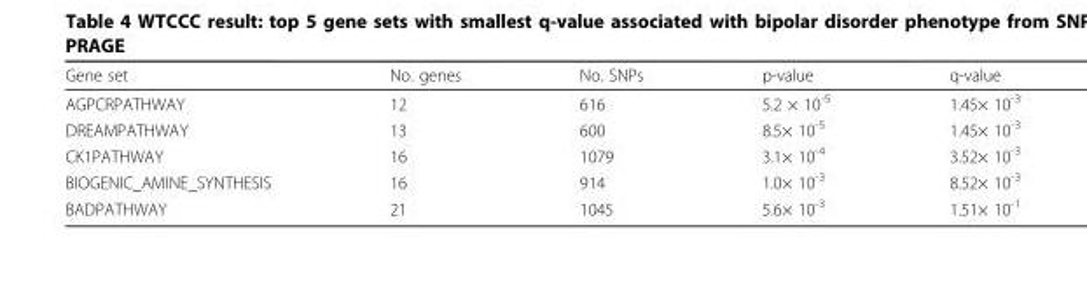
<table><thead><tr><td>Gene set</td><td>No. genes</td><td>No. SNPs</td><td>p-value</td><td>q-value</td></tr></thead><tbody><tr><td>AGPCRPATHWAY</td><td>12</td><td>616</td><td>5.2 × 10<sup>-5</sup></td><td>1.45× 10<sup>-3</sup></td></tr><tr><td>DREAMPATHWAY</td><td>13</td><td>600</td><td>8.5× 10<sup>-5</sup></td><td>1.45× 10<sup>-3</sup></td></tr><tr><td>CK1PATHWAY</td><td>16</td><td>1079</td><td>3.1× 10<sup>-4</sup></td><td>3.52× 10<sup>-3</sup></td></tr><tr><td>BIOGENIC_AMINE_SYNTHESIS</td><td>16</td><td>914</td><td>1.0× 10<sup>-3</sup></td><td>8.52× 10<sup>-3</sup></td></tr><tr><td>BADPATHWAY</td><td>21</td><td>1045</td><td>5.6× 10<sup>-3</sup></td><td>1.51× 10<sup>-1</sup></td></tr></tbody></table>